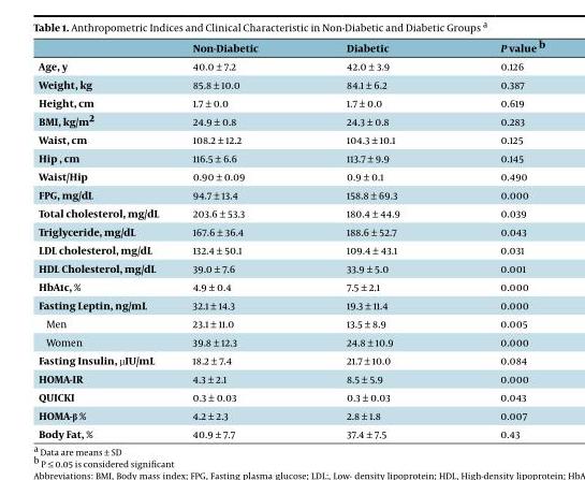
<table><thead><tr><td></td><td>Non-Diabetic</td><td>Diabetic</td><td>P value b</td></tr></thead><tbody><tr><td>Age, y</td><td>40.0 ± 7.2</td><td>42.0 ± 3.9</td><td>0.126</td></tr><tr><td>Weight, kg</td><td>85.8 ± 10.0</td><td>84.1 ± 6.2</td><td>0.387</td></tr><tr><td>Height, cm</td><td>1.7 ± 0.0</td><td>1.7 ± 0.0</td><td>0.619</td></tr><tr><td>BMI, kg/m<sup>2</sup></td><td>24.9 ± 0.8</td><td>24.3 ± 0.8</td><td>0.283</td></tr><tr><td>Waist, cm</td><td>108.2 ± 12.2</td><td>104.3 ± 10.1</td><td>0.125</td></tr><tr><td>Hip , cm</td><td>116.5 ± 6.6</td><td>113.7 ± 9.9</td><td>0.145</td></tr><tr><td>Waist/Hip</td><td>0.90 ± 0.09</td><td>0.9 ± 0.1</td><td>0.490</td></tr><tr><td>FPG, mg/dL</td><td>94.7 ± 13.4</td><td>158.8 ± 69.3</td><td>0.000</td></tr><tr><td>Total cholesterol, mg/dL</td><td>203.6 ± 53.3</td><td>180.4 ± 44.9</td><td>0.039</td></tr><tr><td>Triglyceride, mg/dL</td><td>167.6 ± 36.4</td><td>188.6 ± 52.7</td><td>0.043</td></tr><tr><td>LDL cholesterol, mg/dL</td><td>132.4 ± 50.1</td><td>109.4 ± 43.1</td><td>0.031</td></tr><tr><td>HDL Cholesterol, mg/dL</td><td>39.0 ± 7.6</td><td>33.9 ± 5.0</td><td>0.001</td></tr><tr><td>HbA1c, %</td><td>4.9 ± 0.4</td><td>7.5 ± 2.1</td><td>0.000</td></tr><tr><td>Fasting Leptin, ng/mL</td><td>32.1 ± 14.3</td><td>19.3 ± 11.4</td><td>0.000</td></tr><tr><td>Men</td><td>23.1 ± 11.0</td><td>13.5 ± 8.9</td><td>0.005</td></tr><tr><td>Women</td><td>39.8 ± 12.3</td><td>24.8 ± 10.9</td><td>0.000</td></tr><tr><td>Fasting Insulin, µIU/mL</td><td>18.2 ± 7.4</td><td>21.7 ± 10.0</td><td>0.084</td></tr><tr><td>HOMA-IR</td><td>4.3 ± 2.1</td><td>8.5 ± 5.9</td><td>0.000</td></tr><tr><td>QUICKI</td><td>0.3 ± 0.03</td><td>0.3 ± 0.03</td><td>0.043</td></tr><tr><td>HOMA-β %</td><td>4.2 ± 2.3</td><td>2.8 ± 1.8</td><td>0.007</td></tr><tr><td>Body Fat, %</td><td>40.9 ± 7.7</td><td>37.4 ± 7.5</td><td>0.43</td></tr></tbody></table>